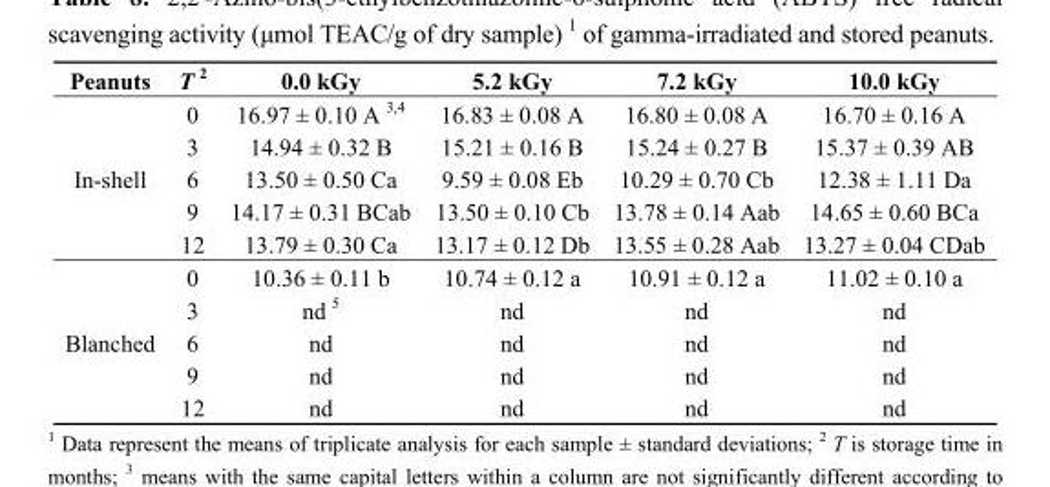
<table><thead><tr><td>Peanuts</td><td>T 2</td><td>0.0 kGy</td><td>5.2 kGy</td><td>7.2 kGy</td><td>10.0 kGy</td></tr></thead><tbody><tr><td rowspan="5">In-shell</td><td>0</td><td>16.97 ± 0.10 A 3,4</td><td>16.83 ± 0.08 A</td><td>16.80 ± 0.08 A</td><td>16.70 ± 0.16 A</td></tr><tr><td>3</td><td>14.94 ± 0.32 B</td><td>15.21 ± 0.16 B</td><td>15.24 ± 0.27 B</td><td>15.37 ± 0.39 AB</td></tr><tr><td>6</td><td>13.50 ± 0.50 Ca</td><td>9.59 ± 0.08 Eb</td><td>10.29 ± 0.70 Cb</td><td>12.38 ± 1.11 Da</td></tr><tr><td>9</td><td>14.17 ± 0.31 BCab</td><td>13.50 ± 0.10 Cb</td><td>13.78 ± 0.14 Aab</td><td>14.65 ± 0.60 BCa</td></tr><tr><td>12</td><td>13.79 ± 0.30 Ca</td><td>13.17 ± 0.12 Db</td><td>13.55 ± 0.28 Aab</td><td>13.27 ± 0.04 CDab</td></tr><tr><td rowspan="5">Blanched</td><td>0</td><td>10.36 ± 0.11 b</td><td>10.74 ± 0.12 a</td><td>10.91 ± 0.12 a</td><td>11.02 ± 0.10 a</td></tr><tr><td>3</td><td>nd 5</td><td>nd</td><td>nd</td><td>nd</td></tr><tr><td>6</td><td>nd</td><td>nd</td><td>nd</td><td>nd</td></tr><tr><td>9</td><td>nd</td><td>nd</td><td>nd</td><td>nd</td></tr><tr><td>12</td><td>nd</td><td>nd</td><td>nd</td><td>nd</td></tr></tbody></table>